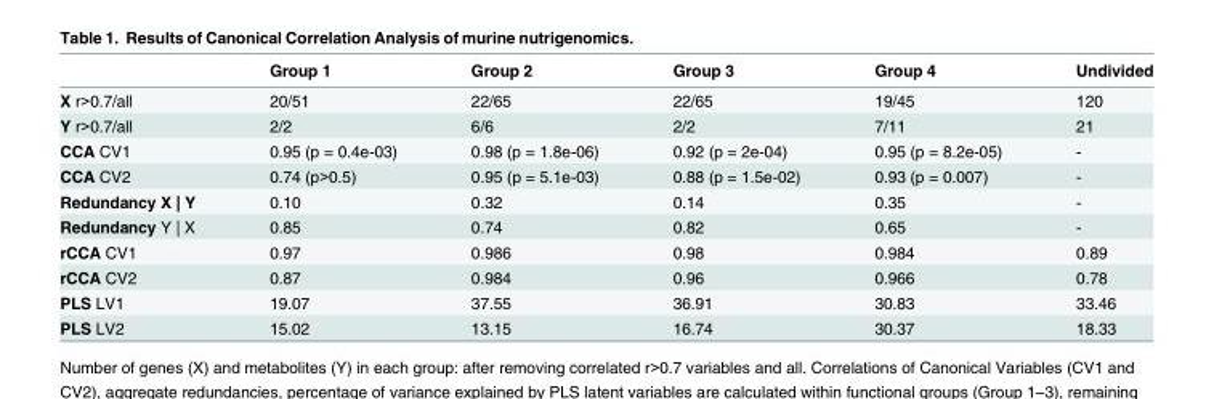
<table><thead><tr><td></td><td>Group 1</td><td>Group 2</td><td>Group 3</td><td>Group 4</td><td>Undivided</td></tr></thead><tbody><tr><td>X r&gt;0.7/all</td><td>20/51</td><td>22/65</td><td>22/65</td><td>19/45</td><td>120</td></tr><tr><td>Y r&gt;0.7/all</td><td>2/2</td><td>6/6</td><td>2/2</td><td>7/11</td><td>21</td></tr><tr><td>CCA CV1</td><td>0.95 (p = 0.4e-03)</td><td>0.98 (p = 1.8e-06)</td><td>0.92 (p = 2e-04)</td><td>0.95 (p = 8.2e-05)</td><td>-</td></tr><tr><td>CCA CV2</td><td>0.74 (p&gt;0.5)</td><td>0.95 (p = 5.1e-03)</td><td>0.88 (p = 1.5e-02)</td><td>0.93 (p = 0.007)</td><td>-</td></tr><tr><td>Redundancy X | Y</td><td>0.10</td><td>0.32</td><td>0.14</td><td>0.35</td><td>-</td></tr><tr><td>Redundancy Y | X</td><td>0.85</td><td>0.74</td><td>0.82</td><td>0.65</td><td>-</td></tr><tr><td>rCCA CV1</td><td>0.97</td><td>0.986</td><td>0.98</td><td>0.984</td><td>0.89</td></tr><tr><td>rCCA CV2</td><td>0.87</td><td>0.984</td><td>0.96</td><td>0.966</td><td>0.78</td></tr><tr><td>PLS LV1</td><td>19.07</td><td>37.55</td><td>36.91</td><td>30.83</td><td>33.46</td></tr><tr><td>PLS LV2</td><td>15.02</td><td>13.15</td><td>16.74</td><td>30.37</td><td>18.33</td></tr></tbody></table>